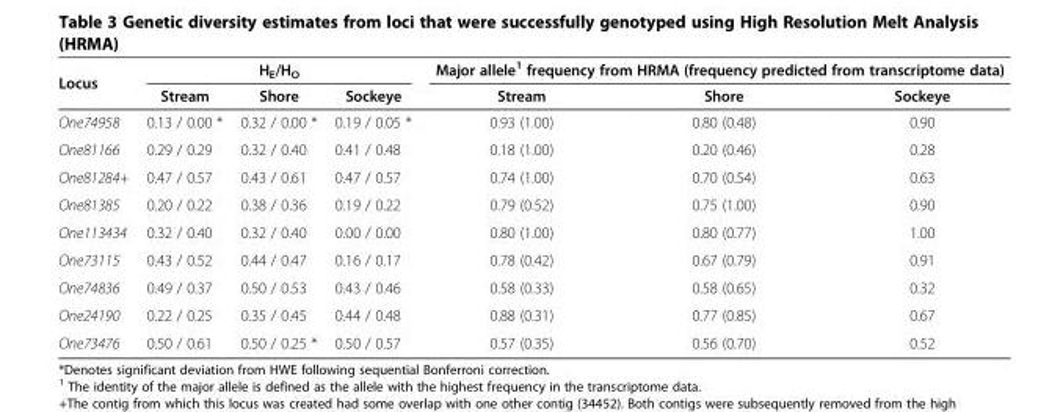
<table><thead><tr><td rowspan="2">Locus</td><td colspan="3">H<sub>E</sub>/H<sub>O</sub></td><td colspan="3">Major allele<sup>1</sup> frequency from HRMA (frequency predicted from transcriptome data)</td></tr><tr><td>Stream</td><td>Shore</td><td>Sockeye</td><td>Stream</td><td>Shore</td><td>Sockeye</td></tr></thead><tbody><tr><td>One74958</td><td>0.13 / 0.00 *</td><td>0.32 / 0.00 *</td><td>0.19 / 0.05 *</td><td>0.93 (1.00)</td><td>0.80 (0.48)</td><td>0.90</td></tr><tr><td>One81166</td><td>0.29 / 0.29</td><td>0.32 / 0.40</td><td>0.41 / 0.48</td><td>0.18 (1.00)</td><td>0.20 (0.46)</td><td>0.28</td></tr><tr><td>One81284+</td><td>0.47 / 0.57</td><td>0.43 / 0.61</td><td>0.47 / 0.57</td><td>0.74 (1.00)</td><td>0.70 (0.54)</td><td>0.63</td></tr><tr><td>One81385</td><td>0.20 / 0.22</td><td>0.38 / 0.36</td><td>0.19 / 0.22</td><td>0.79 (0.52)</td><td>0.75 (1.00)</td><td>0.90</td></tr><tr><td>One113434</td><td>0.32 / 0.40</td><td>0.32 / 0.40</td><td>0.00 / 0.00</td><td>0.80 (1.00)</td><td>0.80 (0.77)</td><td>1.00</td></tr><tr><td>One73115</td><td>0.43 / 0.52</td><td>0.44 / 0.47</td><td>0.16 / 0.17</td><td>0.78 (0.42)</td><td>0.67 (0.79)</td><td>0.91</td></tr><tr><td>One74836</td><td>0.49 / 0.37</td><td>0.50 / 0.53</td><td>0.43 / 0.46</td><td>0.58 (0.33)</td><td>0.58 (0.65)</td><td>0.32</td></tr><tr><td>One24190</td><td>0.22 / 0.25</td><td>0.35 / 0.45</td><td>0.44 / 0.48</td><td>0.88 (0.31)</td><td>0.77 (0.85)</td><td>0.67</td></tr><tr><td>One73476</td><td>0.50 / 0.61</td><td>0.50 / 0.25 *</td><td>0.50 / 0.57</td><td>0.57 (0.35)</td><td>0.56 (0.70)</td><td>0.52</td></tr></tbody></table>